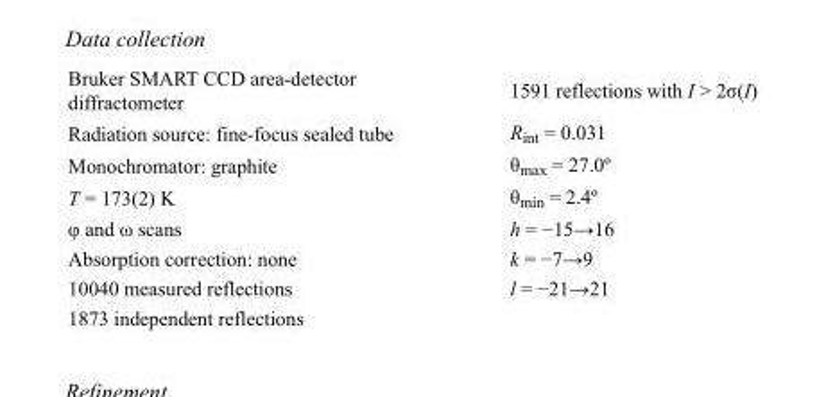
<table><tbody><tr><td>Bruker SMART CCD area-detector diffractometer</td><td>1591 reflections with I &gt; 2σ(I)</td></tr><tr><td>Radiation source: fine-focus sealed tube</td><td>R<sub>int</sub> = 0.031</td></tr><tr><td>Monochromator: graphite</td><td>θ<sub>max</sub> = 27.0º</td></tr><tr><td>T = 173(2) K</td><td>θ<sub>min</sub> = 2.4º</td></tr><tr><td>φ and ω scans</td><td>h = −15→16</td></tr><tr><td>Absorption correction: none</td><td>k = −7→9</td></tr><tr><td>10040 measured reflections</td><td>l = −21→21</td></tr><tr><td>1873 independent reflections</td><td></td></tr></tbody></table>